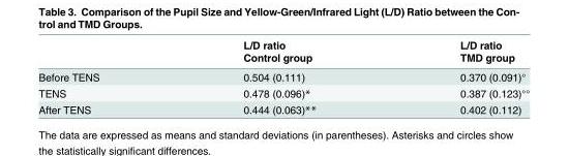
<table><thead><tr><td rowspan="2"></td><td rowspan="2">L/D ratio Control group</td><td rowspan="2">L/D ratio TMD group</td></tr><tr></tr></thead><tbody><tr><td>Before TENS</td><td>0.504 (0.111)</td><td>0.370 (0.091)°</td></tr><tr><td>TENS</td><td>0.478 (0.096)*</td><td>0.387 (0.123)°°</td></tr><tr><td>After TENS</td><td>0.444 (0.063)**</td><td>0.402 (0.112)</td></tr></tbody></table>